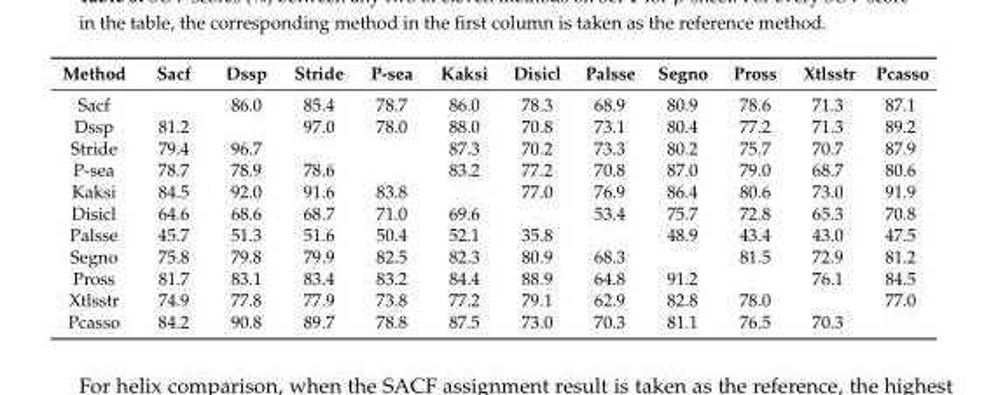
<table><thead><tr><td>Method</td><td>Sacf</td><td>Dssp</td><td>Stride</td><td>P-sea</td><td>Kaksi</td><td>Disicl</td><td>Palsse</td><td>Segno</td><td>Pross</td><td>Xtlsstr</td><td>Pcasso</td></tr></thead><tbody><tr><td>Sacf</td><td></td><td>86.0</td><td>85.4</td><td>78.7</td><td>86.0</td><td>78.3</td><td>68.9</td><td>80.9</td><td>78.6</td><td>71.3</td><td>87.1</td></tr><tr><td>Dssp</td><td>81.2</td><td></td><td>97.0</td><td>78.0</td><td>88.0</td><td>70.8</td><td>73.1</td><td>80.4</td><td>77.2</td><td>71.3</td><td>89.2</td></tr><tr><td>Stride</td><td>79.4</td><td>96.7</td><td></td><td></td><td>87.3</td><td>70.2</td><td>73.3</td><td>80.2</td><td>75.7</td><td>70.7</td><td>87.9</td></tr><tr><td>P-sea</td><td>78.7</td><td>78.9</td><td>78.6</td><td></td><td>83.2</td><td>77.2</td><td>70.8</td><td>87.0</td><td>79.0</td><td>68.7</td><td>80.6</td></tr><tr><td>Kaksi</td><td>84.5</td><td>92.0</td><td>91.6</td><td>83.8</td><td></td><td>77.0</td><td>76.9</td><td>86.4</td><td>80.6</td><td>73.0</td><td>91.9</td></tr><tr><td>Disicl</td><td>64.6</td><td>68.6</td><td>68.7</td><td>71.0</td><td>69.6</td><td></td><td>53.4</td><td>75.7</td><td>72.8</td><td>65.3</td><td>70.8</td></tr><tr><td>Palsse</td><td>45.7</td><td>51.3</td><td>51.6</td><td>50.4</td><td>52.1</td><td>35.8</td><td></td><td>48.9</td><td>43.4</td><td>43.0</td><td>47.5</td></tr><tr><td>Segno</td><td>75.8</td><td>79.8</td><td>79.9</td><td>82.5</td><td>82.3</td><td>80.9</td><td>68.3</td><td></td><td>81.5</td><td>72.9</td><td>81.2</td></tr><tr><td>Pross</td><td>81.7</td><td>83.1</td><td>83.4</td><td>83.2</td><td>84.4</td><td>88.9</td><td>64.8</td><td>91.2</td><td></td><td>76.1</td><td>84.5</td></tr><tr><td>Xtlsstr</td><td>74.9</td><td>77.8</td><td>77.9</td><td>73.8</td><td>77.2</td><td>79.1</td><td>62.9</td><td>82.8</td><td>78.0</td><td></td><td>77.0</td></tr><tr><td>Pcasso</td><td>84.2</td><td>90.8</td><td>89.7</td><td>78.8</td><td>87.5</td><td>73.0</td><td>70.3</td><td>81.1</td><td>76.5</td><td>70.3</td><td></td></tr></tbody></table>